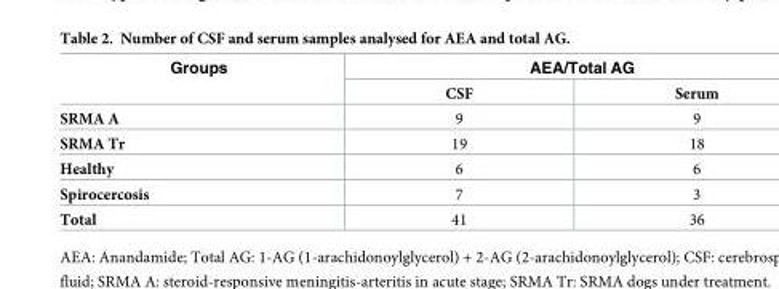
<table><thead><tr><td rowspan="2">Groups</td><td colspan="2">AEA/Total AG</td></tr><tr><td>CSF</td><td>Serum</td></tr></thead><tbody><tr><td>SRMA A</td><td>9</td><td>9</td></tr><tr><td>SRMA Tr</td><td>19</td><td>18</td></tr><tr><td>Healthy</td><td>6</td><td>6</td></tr><tr><td>Spirocercosis</td><td>7</td><td>3</td></tr><tr><td>Total</td><td>41</td><td>36</td></tr></tbody></table>